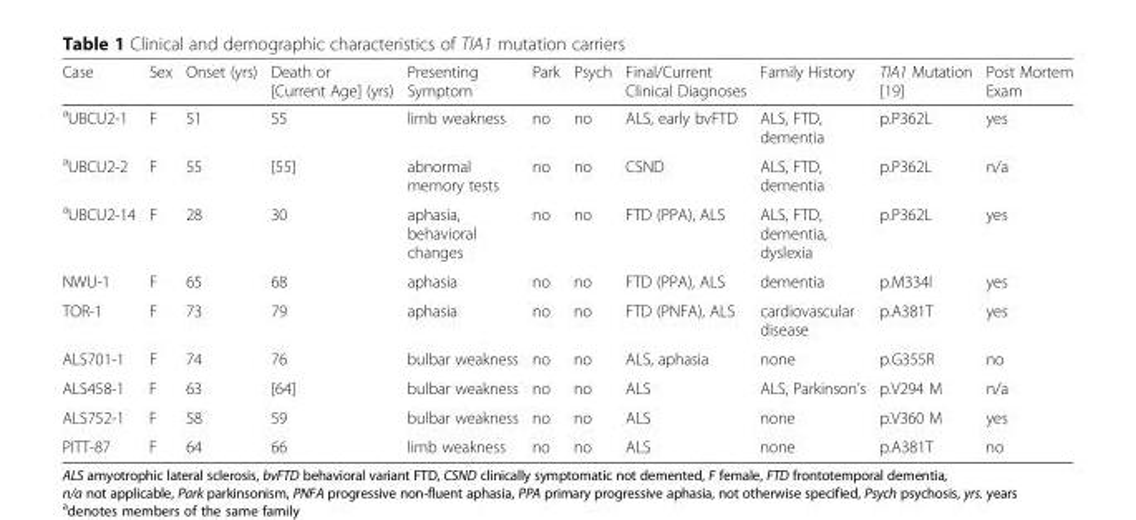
<table><thead><tr><td>Case</td><td>Sex</td><td>Onset (yrs)</td><td>Death or [Current Age] (yrs)</td><td>Presenting Symptom</td><td>Park</td><td>Psych</td><td>Final/Current Clinical Diagnoses</td><td>Family History</td><td>TIA1 Mutation [19]</td><td>Post Mortem Exam</td></tr></thead><tbody><tr><td><sup>a</sup>UBCU2-1</td><td>F</td><td>51</td><td>55</td><td>limb weakness</td><td>no</td><td>no</td><td>ALS, early bvFTD</td><td>ALS, FTD, dementia</td><td>p.P362L</td><td>yes</td></tr><tr><td><sup>a</sup>UBCU2-2</td><td>F</td><td>55</td><td>[55]</td><td>abnormal memory tests</td><td>no</td><td>no</td><td>CSND</td><td>ALS, FTD, dementia</td><td>p.P362L</td><td>n/a</td></tr><tr><td><sup>a</sup>UBCU2-14</td><td>F</td><td>28</td><td>30</td><td>aphasia, behavioral changes</td><td>no</td><td>no</td><td>FTD (PPA), ALS</td><td>ALS, FTD, dementia, dyslexia</td><td>p.P362L</td><td>yes</td></tr><tr><td>NWU-1</td><td>F</td><td>65</td><td>68</td><td>aphasia</td><td>no</td><td>no</td><td>FTD (PPA), ALS</td><td>dementia</td><td>p.M334I</td><td>yes</td></tr><tr><td>TOR-1</td><td>F</td><td>73</td><td>79</td><td>aphasia</td><td>no</td><td>no</td><td>FTD (PNFA), ALS</td><td>cardiovascular disease</td><td>p.A381T</td><td>yes</td></tr><tr><td>ALS701-1</td><td>F</td><td>74</td><td>76</td><td>bulbar weakness</td><td>no</td><td>no</td><td>ALS, aphasia</td><td>none</td><td>p.G355R</td><td>no</td></tr><tr><td>ALS458-1</td><td>F</td><td>63</td><td>[64]</td><td>bulbar weakness</td><td>no</td><td>no</td><td>ALS</td><td>ALS, Parkinson’s</td><td>p.V294 M</td><td>n/a</td></tr><tr><td>ALS752-1</td><td>F</td><td>58</td><td>59</td><td>bulbar weakness</td><td>no</td><td>no</td><td>ALS</td><td>none</td><td>p.V360 M</td><td>yes</td></tr><tr><td>PITT-87</td><td>F</td><td>64</td><td>66</td><td>limb weakness</td><td>no</td><td>no</td><td>ALS</td><td>none</td><td>p.A381T</td><td>no</td></tr></tbody></table>